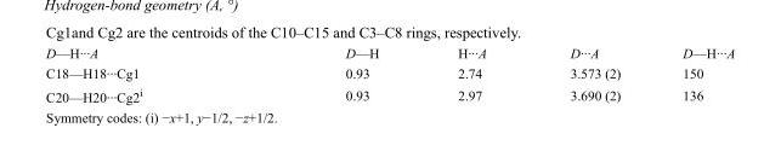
<table><tbody><tr><td>D—H···A</td><td>D—H</td><td>H···A</td><td>D···A</td><td>D—H···A</td></tr><tr><td>C18—H18···Cg1</td><td>0.93</td><td>2.74</td><td>3.573 (2)</td><td>150</td></tr><tr><td>C20—H20···Cg2<sup>i</sup></td><td>0.93</td><td>2.97</td><td>3.690 (2)</td><td>136</td></tr></tbody></table>